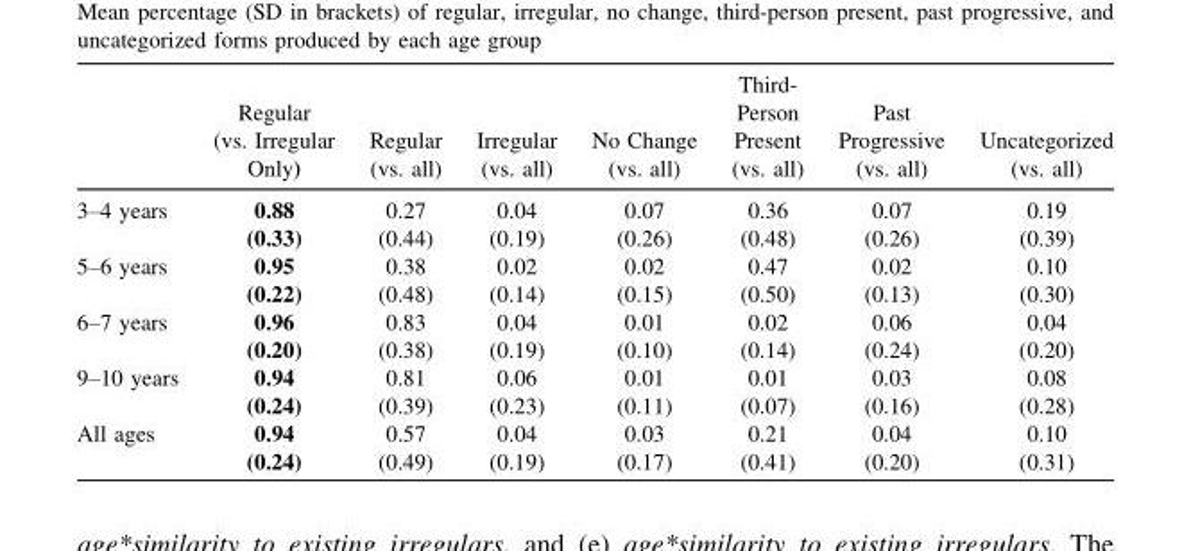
<table><thead><tr><td></td><td>Regular (vs. Irregular Only)</td><td>Regular (vs. all)</td><td>Irregular (vs. all)</td><td>No Change (vs. all)</td><td>Third- Person Present (vs. all)</td><td>Past Progressive (vs. all)</td><td>Uncategorized (vs. all)</td></tr></thead><tbody><tr><td rowspan="2">3–4 years</td><td>0.88</td><td>0.27</td><td>0.04</td><td>0.07</td><td>0.36</td><td>0.07</td><td>0.19</td></tr><tr><td>(0.33)</td><td>(0.44)</td><td>(0.19)</td><td>(0.26)</td><td>(0.48)</td><td>(0.26)</td><td>(0.39)</td></tr><tr><td rowspan="2">5–6 years</td><td>0.95</td><td>0.38</td><td>0.02</td><td>0.02</td><td>0.47</td><td>0.02</td><td>0.10</td></tr><tr><td>(0.22)</td><td>(0.48)</td><td>(0.14)</td><td>(0.15)</td><td>(0.50)</td><td>(0.13)</td><td>(0.30)</td></tr><tr><td rowspan="2">6–7 years</td><td>0.96</td><td>0.83</td><td>0.04</td><td>0.01</td><td>0.02</td><td>0.06</td><td>0.04</td></tr><tr><td>(0.20)</td><td>(0.38)</td><td>(0.19)</td><td>(0.10)</td><td>(0.14)</td><td>(0.24)</td><td>(0.20)</td></tr><tr><td rowspan="2">9–10 years</td><td>0.94</td><td>0.81</td><td>0.06</td><td>0.01</td><td>0.01</td><td>0.03</td><td>0.08</td></tr><tr><td>(0.24)</td><td>(0.39)</td><td>(0.23)</td><td>(0.11)</td><td>(0.07)</td><td>(0.16)</td><td>(0.28)</td></tr><tr><td rowspan="2">All ages</td><td>0.94</td><td>0.57</td><td>0.04</td><td>0.03</td><td>0.21</td><td>0.04</td><td>0.10</td></tr><tr><td>(0.24)</td><td>(0.49)</td><td>(0.19)</td><td>(0.17)</td><td>(0.41)</td><td>(0.20)</td><td>(0.31)</td></tr></tbody></table>